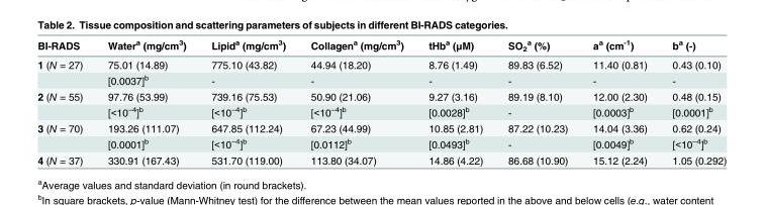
<table><thead><tr><td>BI-RADS</td><td>Water<sup>a</sup> (mg/cm<sup>3</sup>)</td><td>Lipid<sup>a</sup> (mg/cm<sup>3</sup>)</td><td>Collagen<sup>a</sup> (mg/cm<sup>3</sup>)</td><td>tHb<sup>a</sup> (μM)</td><td>SO<sub>2</sub> <sup>a</sup> (%)</td><td>a<sup>a</sup> (cm<sup>-1</sup>)</td><td>b<sup>a</sup> (-)</td></tr></thead><tbody><tr><td rowspan="2">1 (N = 27)</td><td>75.01 (14.89)</td><td>775.10 (43.82)</td><td>44.94 (18.20)</td><td>8.76 (1.49)</td><td>89.83 (6.52)</td><td>11.40 (0.81)</td><td>0.43 (0.10)</td></tr><tr><td>[0.0037]<sup>b</sup></td><td>-</td><td>-</td><td>-</td><td>-</td><td>-</td><td>-</td></tr><tr><td rowspan="2">2 (N = 55)</td><td>97.76 (53.99)</td><td>739.16 (75.53)</td><td>50.90 (21.06)</td><td>9.27 (3.16)</td><td>89.19 (8.10)</td><td>12.00 (2.30)</td><td>0.48 (0.15)</td></tr><tr><td>[&lt;10<sup>–4</sup>]<sup>b</sup></td><td>[&lt;10<sup>–4</sup>]<sup>b</sup></td><td>[&lt;10<sup>–4</sup>]<sup>b</sup></td><td>[0.0028]<sup>b</sup></td><td>-</td><td>[0.0003]<sup>b</sup></td><td>[0.0001]<sup>b</sup></td></tr><tr><td rowspan="2">3 (N = 70)</td><td>193.26 (111.07)</td><td>647.85 (112.24)</td><td>67.23 (44.99)</td><td>10.85 (2.81)</td><td>87.22 (10.23)</td><td>14.04 (3.36)</td><td>0.62 (0.24)</td></tr><tr><td>[0.0001]<sup>b</sup></td><td>[&lt;10<sup>–4</sup>]<sup>b</sup></td><td>[0.0112]<sup>b</sup></td><td>[0.0493]<sup>b</sup></td><td>-</td><td>[0.0049]<sup>b</sup></td><td>[&lt;10<sup>–4</sup>]<sup>b</sup></td></tr><tr><td>4 (N = 37)</td><td>330.91 (167.43)</td><td>531.70 (119.00)</td><td>113.80 (34.07)</td><td>14.86 (4.22)</td><td>86.68 (10.90)</td><td>15.12 (2.24)</td><td>1.05 (0.292)</td></tr></tbody></table>